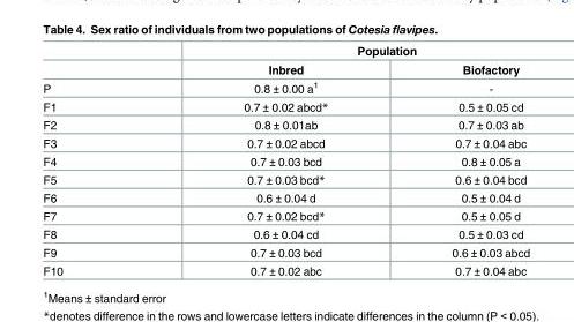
<table><thead><tr><td rowspan="2"></td><td colspan="2">Population</td></tr><tr><td>Inbred</td><td>Biofactory</td></tr></thead><tbody><tr><td>P</td><td>0.8 ± 0.00 a<sup>1</sup></td><td>-</td></tr><tr><td>F1</td><td>0.7 ± 0.02 abcd*</td><td>0.5 ± 0.05 cd</td></tr><tr><td>F2</td><td>0.8 ± 0.01ab</td><td>0.7 ± 0.03 ab</td></tr><tr><td>F3</td><td>0.7 ± 0.02 abcd</td><td>0.7 ± 0.04 abc</td></tr><tr><td>F4</td><td>0.7 ± 0.03 bcd</td><td>0.8 ± 0.05 a</td></tr><tr><td>F5</td><td>0.7 ± 0.03 bcd*</td><td>0.6 ± 0.04 bcd</td></tr><tr><td>F6</td><td>0.6 ± 0.04 d</td><td>0.5 ± 0.04 d</td></tr><tr><td>F7</td><td>0.7 ± 0.02 bcd*</td><td>0.5 ± 0.05 d</td></tr><tr><td>F8</td><td>0.6 ± 0.04 cd</td><td>0.5 ± 0.03 cd</td></tr><tr><td>F9</td><td>0.7 ± 0.03 bcd</td><td>0.6 ± 0.03 abcd</td></tr><tr><td>F10</td><td>0.7 ± 0.02 abc</td><td>0.7 ± 0.04 abc</td></tr></tbody></table>